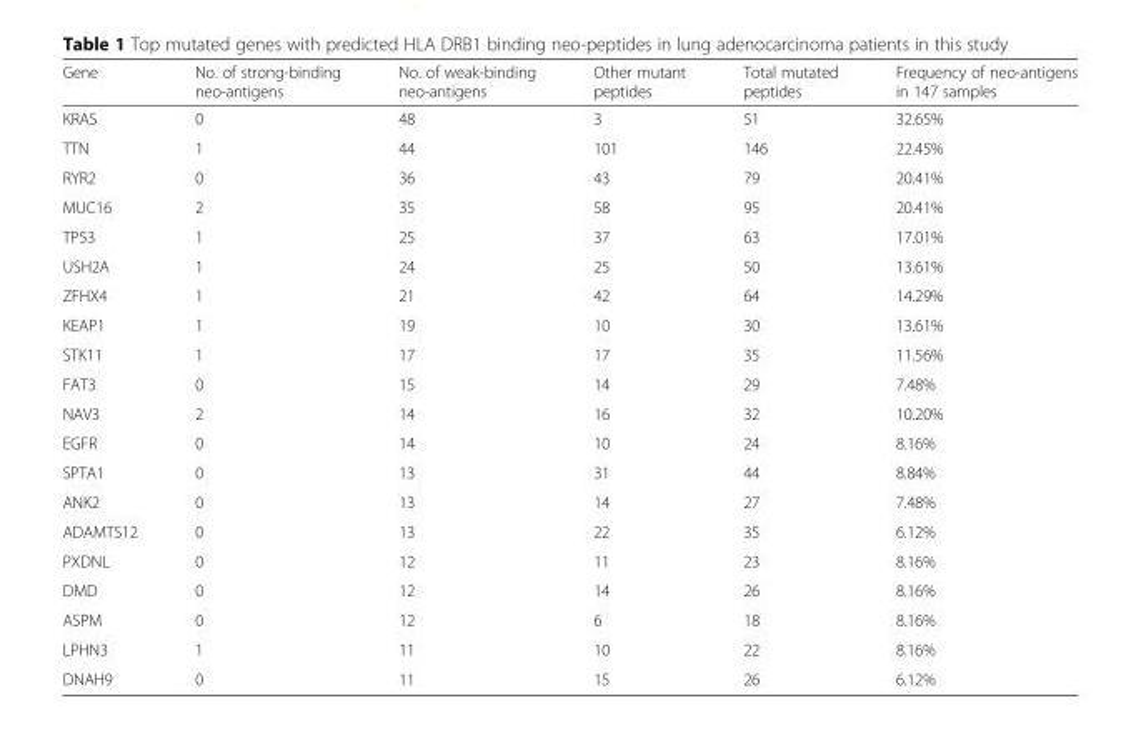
<table><thead><tr><td>Gene</td><td>No. of strong-binding neo-antigens</td><td>No. of weak-binding neo-antigens</td><td>Other mutant peptides</td><td>Total mutated peptides</td><td>Frequency of neo-antigens in 147 samples</td></tr></thead><tbody><tr><td>KRAS</td><td>0</td><td>48</td><td>3</td><td>51</td><td>32.65%</td></tr><tr><td>TTN</td><td>1</td><td>44</td><td>101</td><td>146</td><td>22.45%</td></tr><tr><td>RYR2</td><td>0</td><td>36</td><td>43</td><td>79</td><td>20.41%</td></tr><tr><td>MUC16</td><td>2</td><td>35</td><td>58</td><td>95</td><td>20.41%</td></tr><tr><td>TP53</td><td>1</td><td>25</td><td>37</td><td>63</td><td>17.01%</td></tr><tr><td>USH2A</td><td>1</td><td>24</td><td>25</td><td>50</td><td>13.61%</td></tr><tr><td>ZFHX4</td><td>1</td><td>21</td><td>42</td><td>64</td><td>14.29%</td></tr><tr><td>KEAP1</td><td>1</td><td>19</td><td>10</td><td>30</td><td>13.61%</td></tr><tr><td>STK11</td><td>1</td><td>17</td><td>17</td><td>35</td><td>11.56%</td></tr><tr><td>FAT3</td><td>0</td><td>15</td><td>14</td><td>29</td><td>7.48%</td></tr><tr><td>NAV3</td><td>2</td><td>14</td><td>16</td><td>32</td><td>10.20%</td></tr><tr><td>EGFR</td><td>0</td><td>14</td><td>10</td><td>24</td><td>8.16%</td></tr><tr><td>SPTA1</td><td>0</td><td>13</td><td>31</td><td>44</td><td>8.84%</td></tr><tr><td>ANK2</td><td>0</td><td>13</td><td>14</td><td>27</td><td>7.48%</td></tr><tr><td>ADAMTS12</td><td>0</td><td>13</td><td>22</td><td>35</td><td>6.12%</td></tr><tr><td>PXDNL</td><td>0</td><td>12</td><td>11</td><td>23</td><td>8.16%</td></tr><tr><td>DMD</td><td>0</td><td>12</td><td>14</td><td>26</td><td>8.16%</td></tr><tr><td>ASPM</td><td>0</td><td>12</td><td>6</td><td>18</td><td>8.16%</td></tr><tr><td>LPHN3</td><td>1</td><td>11</td><td>10</td><td>22</td><td>8.16%</td></tr><tr><td>DNAH9</td><td>0</td><td>11</td><td>15</td><td>26</td><td>6.12%</td></tr></tbody></table>